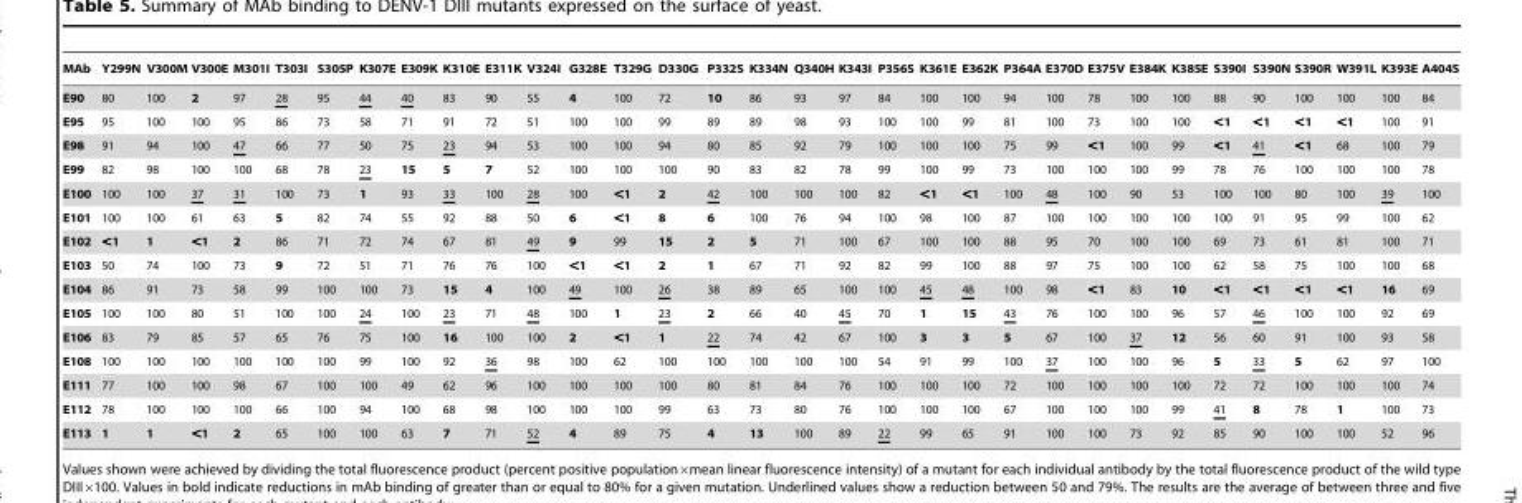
<table><thead><tr><td>MAb</td><td>Y299N</td><td>V300M</td><td>V300E</td><td>M301I</td><td>T303I</td><td>S305P</td><td>K307E</td><td>E309K</td><td>K310E</td><td>E311K</td><td>V324I</td><td>G328E</td><td>T329G</td><td>D330G</td><td>P332S</td><td>K334N</td><td>Q340H</td><td>K343I</td><td>P356S</td><td>K361E</td><td>E362K</td><td>P364A</td><td>E370D</td><td>E375V</td><td>E384K</td><td>K385E</td><td>S390I</td><td>S390N</td><td>S390R</td><td>W391L</td><td>K393E</td><td>A404S</td></tr></thead><tbody><tr><td>E90</td><td>80</td><td>100</td><td>2</td><td>97</td><td>28</td><td>95</td><td>44</td><td>40</td><td>83</td><td>90</td><td>55</td><td>4</td><td>100</td><td>72</td><td>10</td><td>86</td><td>93</td><td>97</td><td>84</td><td>100</td><td>100</td><td>94</td><td>100</td><td>78</td><td>100</td><td>100</td><td>88</td><td>90</td><td>100</td><td>100</td><td>100</td><td>84</td></tr><tr><td>E95</td><td>95</td><td>100</td><td>100</td><td>95</td><td>86</td><td>73</td><td>58</td><td>71</td><td>91</td><td>72</td><td>51</td><td>100</td><td>100</td><td>99</td><td>89</td><td>89</td><td>98</td><td>93</td><td>100</td><td>100</td><td>99</td><td>81</td><td>100</td><td>73</td><td>100</td><td>100</td><td>&lt;1</td><td>&lt;1</td><td>&lt;1</td><td>&lt;1</td><td>100</td><td>91</td></tr><tr><td>E98</td><td>91</td><td>94</td><td>100</td><td>47</td><td>66</td><td>77</td><td>50</td><td>75</td><td>23</td><td>94</td><td>53</td><td>100</td><td>100</td><td>94</td><td>80</td><td>85</td><td>92</td><td>79</td><td>100</td><td>100</td><td>100</td><td>75</td><td>99</td><td>&lt;1</td><td>100</td><td>99</td><td>&lt;1</td><td>41</td><td>&lt;1</td><td>68</td><td>100</td><td>79</td></tr><tr><td>E99</td><td>82</td><td>98</td><td>100</td><td>100</td><td>68</td><td>78</td><td>23</td><td>15</td><td>5</td><td>7</td><td>52</td><td>100</td><td>100</td><td>100</td><td>90</td><td>83</td><td>82</td><td>78</td><td>99</td><td>100</td><td>99</td><td>73</td><td>100</td><td>100</td><td>100</td><td>99</td><td>78</td><td>76</td><td>100</td><td>100</td><td>100</td><td>78</td></tr><tr><td>E100</td><td>100</td><td>100</td><td>37</td><td>31</td><td>100</td><td>73</td><td>1</td><td>93</td><td>33</td><td>100</td><td>28</td><td>100</td><td>&lt;1</td><td>2</td><td>42</td><td>100</td><td>100</td><td>100</td><td>82</td><td>&lt;1</td><td>&lt;1</td><td>100</td><td>48</td><td>100</td><td>90</td><td>53</td><td>100</td><td>100</td><td>80</td><td>100</td><td>39</td><td>100</td></tr><tr><td>E101</td><td>100</td><td>100</td><td>61</td><td>63</td><td>5</td><td>82</td><td>74</td><td>55</td><td>92</td><td>88</td><td>50</td><td>6</td><td>&lt;1</td><td>8</td><td>6</td><td>100</td><td>76</td><td>94</td><td>100</td><td>98</td><td>100</td><td>87</td><td>100</td><td>100</td><td>100</td><td>100</td><td>100</td><td>91</td><td>95</td><td>99</td><td>100</td><td>62</td></tr><tr><td>E102</td><td>&lt;1</td><td>1</td><td>&lt;1</td><td>2</td><td>86</td><td>71</td><td>72</td><td>74</td><td>67</td><td>81</td><td>49</td><td>9</td><td>99</td><td>15</td><td>2</td><td>5</td><td>71</td><td>100</td><td>67</td><td>100</td><td>100</td><td>88</td><td>95</td><td>70</td><td>100</td><td>100</td><td>69</td><td>73</td><td>61</td><td>81</td><td>100</td><td>71</td></tr><tr><td>E103</td><td>50</td><td>74</td><td>100</td><td>73</td><td>9</td><td>72</td><td>51</td><td>71</td><td>76</td><td>76</td><td>100</td><td>&lt;1</td><td>&lt;1</td><td>2</td><td>1</td><td>67</td><td>71</td><td>92</td><td>82</td><td>99</td><td>100</td><td>88</td><td>97</td><td>75</td><td>100</td><td>100</td><td>62</td><td>58</td><td>75</td><td>100</td><td>100</td><td>68</td></tr><tr><td>E104</td><td>86</td><td>91</td><td>73</td><td>58</td><td>99</td><td>100</td><td>100</td><td>73</td><td>15</td><td>4</td><td>100</td><td>49</td><td>100</td><td>26</td><td>38</td><td>89</td><td>65</td><td>100</td><td>100</td><td>45</td><td>48</td><td>100</td><td>98</td><td>&lt;1</td><td>83</td><td>10</td><td>&lt;1</td><td>&lt;1</td><td>&lt;1</td><td>&lt;1</td><td>16</td><td>69</td></tr><tr><td>E105</td><td>100</td><td>100</td><td>80</td><td>51</td><td>100</td><td>100</td><td>24</td><td>100</td><td>23</td><td>71</td><td>48</td><td>100</td><td>1</td><td>23</td><td>2</td><td>66</td><td>40</td><td>45</td><td>70</td><td>1</td><td>15</td><td>43</td><td>76</td><td>100</td><td>100</td><td>96</td><td>57</td><td>46</td><td>100</td><td>100</td><td>92</td><td>69</td></tr><tr><td>E106</td><td>83</td><td>79</td><td>85</td><td>57</td><td>65</td><td>76</td><td>75</td><td>100</td><td>16</td><td>100</td><td>100</td><td>2</td><td>&lt;1</td><td>1</td><td>22</td><td>74</td><td>42</td><td>67</td><td>100</td><td>3</td><td>3</td><td>5</td><td>67</td><td>100</td><td>37</td><td>12</td><td>56</td><td>60</td><td>91</td><td>100</td><td>93</td><td>58</td></tr><tr><td>E108</td><td>100</td><td>100</td><td>100</td><td>100</td><td>100</td><td>100</td><td>99</td><td>100</td><td>92</td><td>36</td><td>98</td><td>100</td><td>62</td><td>100</td><td>100</td><td>100</td><td>100</td><td>100</td><td>54</td><td>91</td><td>99</td><td>100</td><td>37</td><td>100</td><td>100</td><td>96</td><td>5</td><td>33</td><td>5</td><td>62</td><td>97</td><td>100</td></tr><tr><td>E111</td><td>77</td><td>100</td><td>100</td><td>98</td><td>67</td><td>100</td><td>100</td><td>49</td><td>62</td><td>96</td><td>100</td><td>100</td><td>100</td><td>100</td><td>80</td><td>81</td><td>84</td><td>76</td><td>100</td><td>100</td><td>100</td><td>72</td><td>100</td><td>100</td><td>100</td><td>100</td><td>72</td><td>72</td><td>100</td><td>100</td><td>100</td><td>74</td></tr><tr><td>E112</td><td>78</td><td>100</td><td>100</td><td>100</td><td>66</td><td>100</td><td>94</td><td>100</td><td>68</td><td>98</td><td>100</td><td>100</td><td>100</td><td>99</td><td>63</td><td>73</td><td>80</td><td>76</td><td>100</td><td>100</td><td>100</td><td>67</td><td>100</td><td>100</td><td>100</td><td>99</td><td>41</td><td>8</td><td>78</td><td>1</td><td>100</td><td>73</td></tr><tr><td>E113</td><td>1</td><td>1</td><td>&lt;1</td><td>2</td><td>65</td><td>100</td><td>100</td><td>63</td><td>7</td><td>71</td><td>52</td><td>4</td><td>89</td><td>75</td><td>4</td><td>13</td><td>100</td><td>89</td><td>22</td><td>99</td><td>65</td><td>91</td><td>100</td><td>100</td><td>73</td><td>92</td><td>85</td><td>90</td><td>100</td><td>100</td><td>52</td><td>96</td></tr></tbody></table>